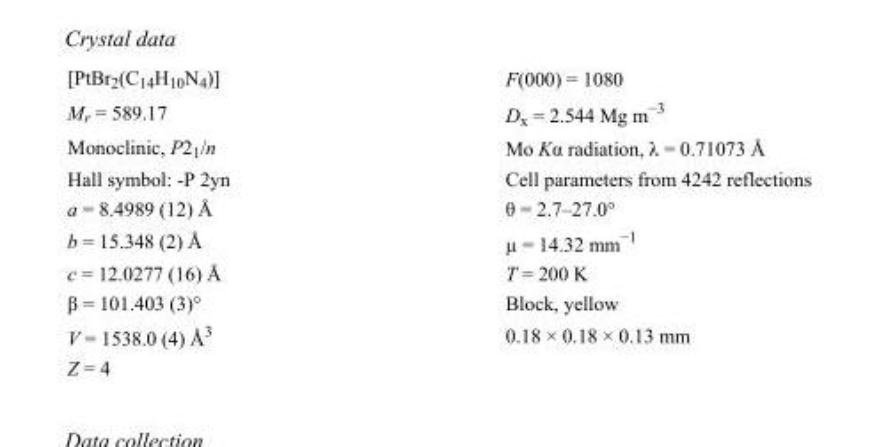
<table><tbody><tr><td>[PtBr<sub>2</sub>(C<sub>14</sub>H<sub>10</sub>N<sub>4</sub>)]</td><td>F(000) = 1080</td></tr><tr><td>M<sub>r</sub> = 589.17</td><td>D<sub>x</sub> = 2.544 Mg m<sup>−3</sup></td></tr><tr><td>Monoclinic, P2<sub>1</sub>/n</td><td>Mo Kα radiation, λ = 0.71073 Å</td></tr><tr><td>Hall symbol: -P 2yn</td><td>Cell parameters from 4242 reflections</td></tr><tr><td>a = 8.4989 (12) Å</td><td>θ = 2.7–27.0°</td></tr><tr><td>b = 15.348 (2) Å</td><td>µ = 14.32 mm<sup>−1</sup></td></tr><tr><td>c = 12.0277 (16) Å</td><td>T = 200 K</td></tr><tr><td>β = 101.403 (3)°</td><td>Block, yellow</td></tr><tr><td>V = 1538.0 (4) Å<sup>3</sup></td><td>0.18 × 0.18 × 0.13 mm</td></tr><tr><td>Z = 4</td><td></td></tr></tbody></table>